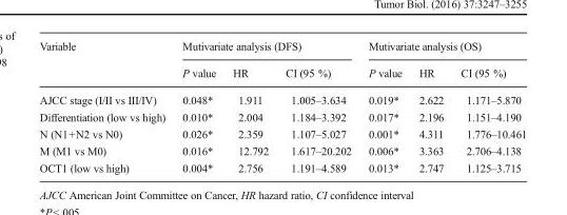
<table><thead><tr><td rowspan="2">Variable</td><td colspan="3">Mutivariate analysis (DFS)</td><td colspan="3">Mutivariate analysis (OS)</td></tr><tr><td>P value</td><td>HR</td><td>CI (95 %)</td><td>P value</td><td>HR</td><td>CI (95 %)</td></tr></thead><tbody><tr><td>AJCC stage (I/II vs III/IV)</td><td>0.048*</td><td>1.911</td><td>1.005–3.634</td><td>0.019*</td><td>2.622</td><td>1.171–5.870</td></tr><tr><td>Differentiation (low vs high)</td><td>0.010*</td><td>2.004</td><td>1.184–3.392</td><td>0.017*</td><td>2.196</td><td>1.151–4.190</td></tr><tr><td>N (N1+N2 vs N0)</td><td>0.026*</td><td>2.359</td><td>1.107–5.027</td><td>0.001*</td><td>4.311</td><td>1.776–10.461</td></tr><tr><td>M (M1 vs M0)</td><td>0.016*</td><td>12.792</td><td>1.617–20.202</td><td>0.006*</td><td>3.363</td><td>2.706–4.138</td></tr><tr><td>OCT1 (low vs high)</td><td>0.004*</td><td>2.756</td><td>1.191–4.589</td><td>0.013*</td><td>2.747</td><td>1.125–3.715</td></tr></tbody></table>